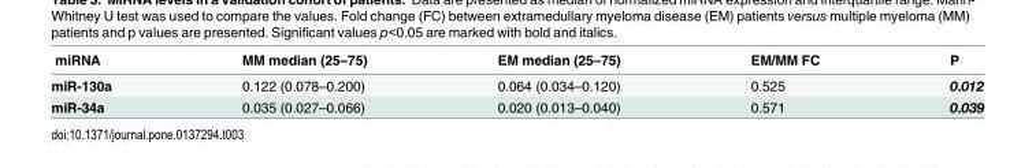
<table><thead><tr><td>miRNA</td><td>MM median (25–75)</td><td>EM median (25–75)</td><td>EM/MM FC</td><td>P</td></tr></thead><tbody><tr><td>miR-130a</td><td>0.122 (0.078–0.200)</td><td>0.064 (0.034–0.120)</td><td>0.525</td><td>0.012</td></tr><tr><td>miR-34a</td><td>0.035 (0.027–0.066)</td><td>0.020 (0.013–0.040)</td><td>0.571</td><td>0.039</td></tr></tbody></table>